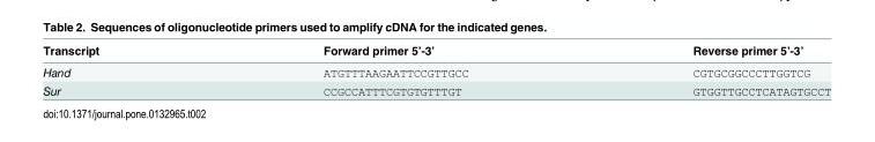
<table><thead><tr><td>Transcript</td><td>Forward primer 5’-3’</td><td>Reverse primer 5’-3’</td></tr></thead><tbody><tr><td>Hand</td><td>ATGTTTAAGAATTCCGTTGCC</td><td>CGTGCGGCCCTTGGTCG</td></tr><tr><td>Sur</td><td>CCGCCATTTCGTGTGTTTGT</td><td>GTGGTTGCCTCATAGTGCCT</td></tr></tbody></table>